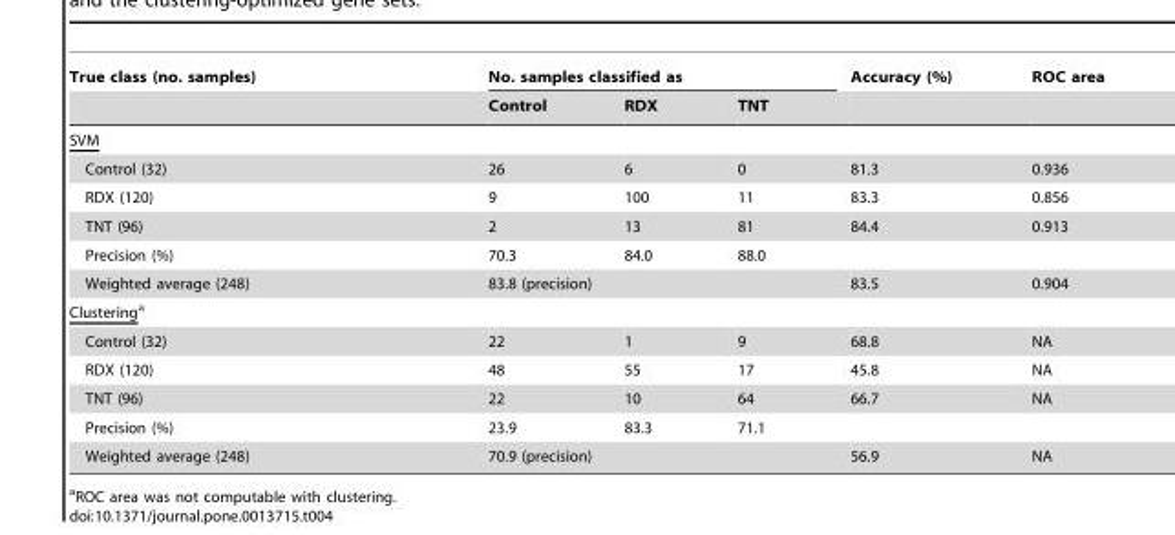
<table><thead><tr><td rowspan="2">True class (no. samples)</td><td colspan="3">No. samples classified as</td><td rowspan="2">Accuracy (%)</td><td rowspan="2">ROC area</td></tr><tr><td>Control</td><td>RDX</td><td>TNT</td></tr></thead><tbody><tr><td colspan="6">SVM</td></tr><tr><td>Control (32)</td><td>26</td><td>6</td><td>0</td><td>81.3</td><td>0.936</td></tr><tr><td>RDX (120)</td><td>9</td><td>100</td><td>11</td><td>83.3</td><td>0.856</td></tr><tr><td>TNT (96)</td><td>2</td><td>13</td><td>81</td><td>84.4</td><td>0.913</td></tr><tr><td>Precision (%)</td><td>70.3</td><td>84.0</td><td>88.0</td><td></td><td></td></tr><tr><td>Weighted average (248)</td><td colspan="3">83.8 (precision)</td><td>83.5</td><td>0.904</td></tr><tr><td colspan="6">Clusteringa</td></tr><tr><td>Control (32)</td><td>22</td><td>1</td><td>9</td><td>68.8</td><td>NA</td></tr><tr><td>RDX (120)</td><td>48</td><td>55</td><td>17</td><td>45.8</td><td>NA</td></tr><tr><td>TNT (96)</td><td>22</td><td>10</td><td>64</td><td>66.7</td><td>NA</td></tr><tr><td>Precision (%)</td><td>23.9</td><td>83.3</td><td>71.1</td><td></td><td></td></tr><tr><td>Weighted average (248)</td><td colspan="3">70.9 (precision)</td><td>56.9</td><td>NA</td></tr></tbody></table>